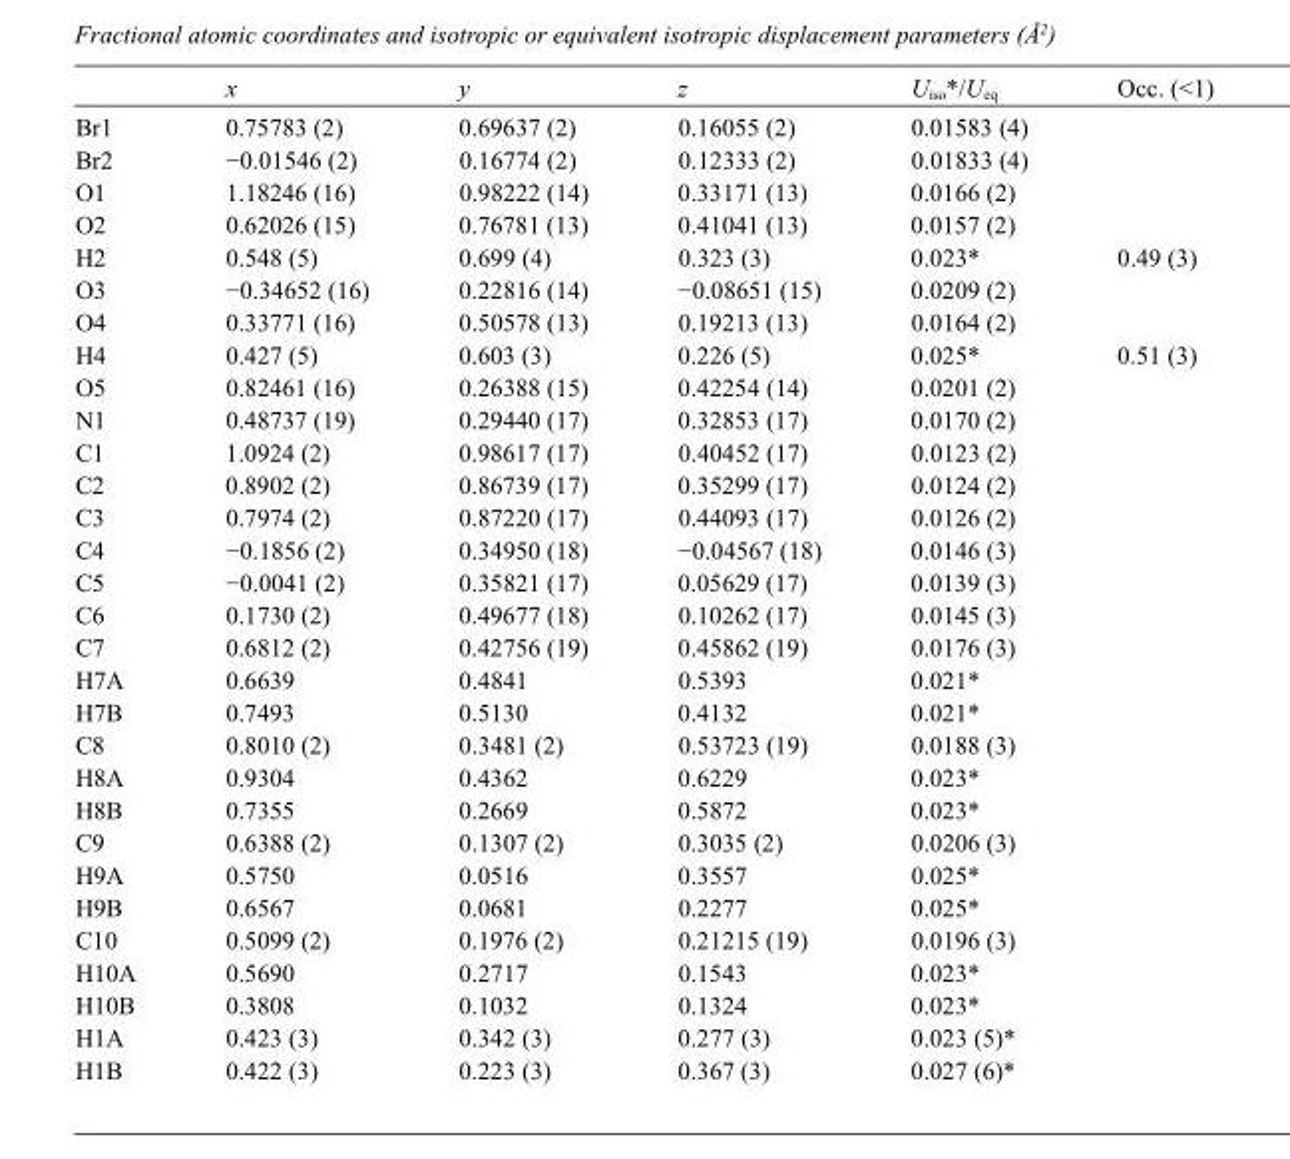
<table><thead><tr><td></td><td>x</td><td>y</td><td>z</td><td>U<sub>iso</sub>*/U<sub>eq</sub></td><td>Occ. (&lt;1)</td></tr></thead><tbody><tr><td>Br1</td><td>0.75783 (2)</td><td>0.69637 (2)</td><td>0.16055 (2)</td><td>0.01583 (4)</td><td></td></tr><tr><td>Br2</td><td>−0.01546 (2)</td><td>0.16774 (2)</td><td>0.12333 (2)</td><td>0.01833 (4)</td><td></td></tr><tr><td>O1</td><td>1.18246 (16)</td><td>0.98222 (14)</td><td>0.33171 (13)</td><td>0.0166 (2)</td><td></td></tr><tr><td>O2</td><td>0.62026 (15)</td><td>0.76781 (13)</td><td>0.41041 (13)</td><td>0.0157 (2)</td><td></td></tr><tr><td>H2</td><td>0.548 (5)</td><td>0.699 (4)</td><td>0.323 (3)</td><td>0.023*</td><td>0.49 (3)</td></tr><tr><td>O3</td><td>−0.34652 (16)</td><td>0.22816 (14)</td><td>−0.08651 (15)</td><td>0.0209 (2)</td><td></td></tr><tr><td>O4</td><td>0.33771 (16)</td><td>0.50578 (13)</td><td>0.19213 (13)</td><td>0.0164 (2)</td><td></td></tr><tr><td>H4</td><td>0.427 (5)</td><td>0.603 (3)</td><td>0.226 (5)</td><td>0.025*</td><td>0.51 (3)</td></tr><tr><td>O5</td><td>0.82461 (16)</td><td>0.26388 (15)</td><td>0.42254 (14)</td><td>0.0201 (2)</td><td></td></tr><tr><td>N1</td><td>0.48737 (19)</td><td>0.29440 (17)</td><td>0.32853 (17)</td><td>0.0170 (2)</td><td></td></tr><tr><td>C1</td><td>1.0924 (2)</td><td>0.98617 (17)</td><td>0.40452 (17)</td><td>0.0123 (2)</td><td></td></tr><tr><td>C2</td><td>0.8902 (2)</td><td>0.86739 (17)</td><td>0.35299 (17)</td><td>0.0124 (2)</td><td></td></tr><tr><td>C3</td><td>0.7974 (2)</td><td>0.87220 (17)</td><td>0.44093 (17)</td><td>0.0126 (2)</td><td></td></tr><tr><td>C4</td><td>−0.1856 (2)</td><td>0.34950 (18)</td><td>−0.04567 (18)</td><td>0.0146 (3)</td><td></td></tr><tr><td>C5</td><td>−0.0041 (2)</td><td>0.35821 (17)</td><td>0.05629 (17)</td><td>0.0139 (3)</td><td></td></tr><tr><td>C6</td><td>0.1730 (2)</td><td>0.49677 (18)</td><td>0.10262 (17)</td><td>0.0145 (3)</td><td></td></tr><tr><td>C7</td><td>0.6812 (2)</td><td>0.42756 (19)</td><td>0.45862 (19)</td><td>0.0176 (3)</td><td></td></tr><tr><td>H7A</td><td>0.6639</td><td>0.4841</td><td>0.5393</td><td>0.021*</td><td></td></tr><tr><td>H7B</td><td>0.7493</td><td>0.5130</td><td>0.4132</td><td>0.021*</td><td></td></tr><tr><td>C8</td><td>0.8010 (2)</td><td>0.3481 (2)</td><td>0.53723 (19)</td><td>0.0188 (3)</td><td></td></tr><tr><td>H8A</td><td>0.9304</td><td>0.4362</td><td>0.6229</td><td>0.023*</td><td></td></tr><tr><td>H8B</td><td>0.7355</td><td>0.2669</td><td>0.5872</td><td>0.023*</td><td></td></tr><tr><td>C9</td><td>0.6388 (2)</td><td>0.1307 (2)</td><td>0.3035 (2)</td><td>0.0206 (3)</td><td></td></tr><tr><td>H9A</td><td>0.5750</td><td>0.0516</td><td>0.3557</td><td>0.025*</td><td></td></tr><tr><td>H9B</td><td>0.6567</td><td>0.0681</td><td>0.2277</td><td>0.025*</td><td></td></tr><tr><td>C10</td><td>0.5099 (2)</td><td>0.1976 (2)</td><td>0.21215 (19)</td><td>0.0196 (3)</td><td></td></tr><tr><td>H10A</td><td>0.5690</td><td>0.2717</td><td>0.1543</td><td>0.023*</td><td></td></tr><tr><td>H10B</td><td>0.3808</td><td>0.1032</td><td>0.1324</td><td>0.023*</td><td></td></tr><tr><td>H1A</td><td>0.423 (3)</td><td>0.342 (3)</td><td>0.277 (3)</td><td>0.023 (5)*</td><td></td></tr><tr><td>H1B</td><td>0.422 (3)</td><td>0.223 (3)</td><td>0.367 (3)</td><td>0.027 (6)*</td><td></td></tr></tbody></table>